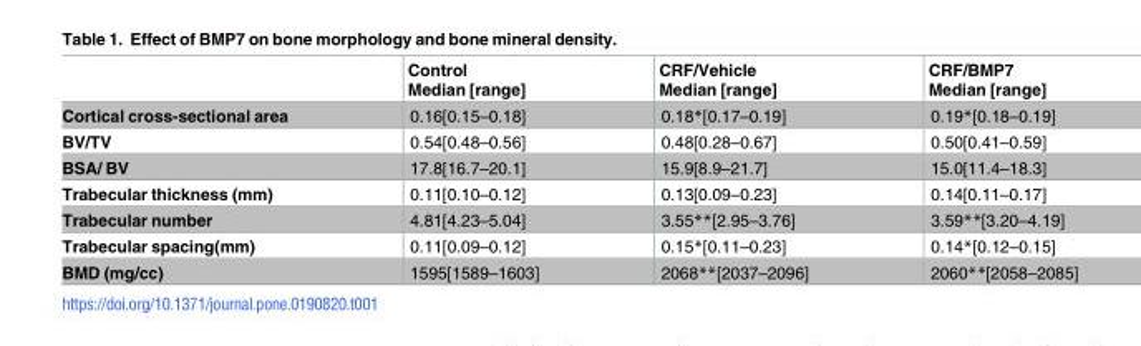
<table><thead><tr><td></td><td>Control Median [range]</td><td>CRF/Vehicle Median [range]</td><td>CRF/BMP7 Median [range]</td></tr></thead><tbody><tr><td>Cortical cross-sectional area</td><td>0.16[0.15–0.18]</td><td>0.18*[0.17–0.19]</td><td>0.19*[0.18–0.19]</td></tr><tr><td>BV/TV</td><td>0.54[0.48–0.56]</td><td>0.48[0.28–0.67]</td><td>0.50[0.41–0.59]</td></tr><tr><td>BSA/ BV</td><td>17.8[16.7–20.1]</td><td>15.9[8.9–21.7]</td><td>15.0[11.4–18.3]</td></tr><tr><td>Trabecular thickness (mm)</td><td>0.11[0.10–0.12]</td><td>0.13[0.09–0.23]</td><td>0.14[0.11–0.17]</td></tr><tr><td>Trabecular number</td><td>4.81[4.23–5.04]</td><td>3.55**[2.95–3.76]</td><td>3.59**[3.20–4.19]</td></tr><tr><td>Trabecular spacing(mm)</td><td>0.11[0.09–0.12]</td><td>0.15*[0.11–0.23]</td><td>0.14*[0.12–0.15]</td></tr><tr><td>BMD (mg/cc)</td><td>1595[1589–1603]</td><td>2068**[2037–2096]</td><td>2060**[2058–2085]</td></tr></tbody></table>